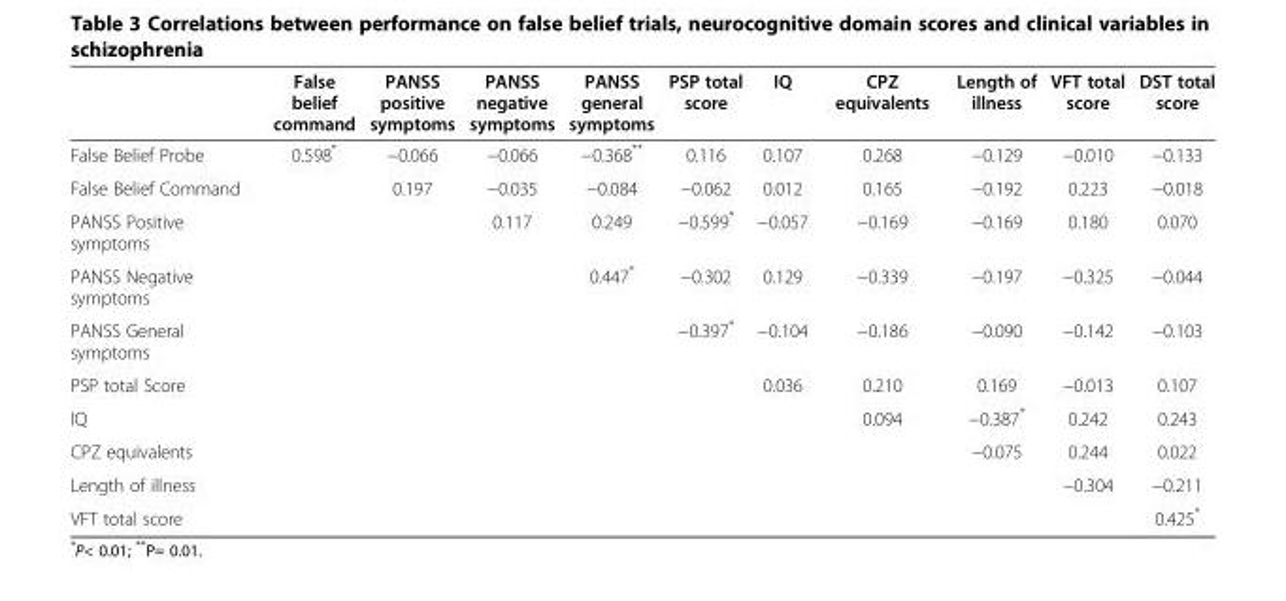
<table><thead><tr><td></td><td>False belief command</td><td>PANSS positive symptoms</td><td>PANSS negative symptoms</td><td>PANSS general symptoms</td><td>PSP total score</td><td>IQ</td><td>CPZ equivalents</td><td>Length of illness</td><td>VFT total score</td><td>DST total score</td></tr></thead><tbody><tr><td>False Belief Probe</td><td>0.598*</td><td>−0.066</td><td>−0.066</td><td>−0.368**</td><td>0.116</td><td>0.107</td><td>0.268</td><td>−0.129</td><td>−0.010</td><td>−0.133</td></tr><tr><td>False Belief Command</td><td></td><td>0.197</td><td>−0.035</td><td>−0.084</td><td>−0.062</td><td>0.012</td><td>0.165</td><td>−0.192</td><td>0.223</td><td>−0.018</td></tr><tr><td>PANSS Positive symptoms</td><td></td><td></td><td>0.117</td><td>0.249</td><td>−0.599*</td><td>−0.057</td><td>−0.169</td><td>−0.169</td><td>0.180</td><td>0.070</td></tr><tr><td>PANSS Negative symptoms</td><td></td><td></td><td></td><td>0.447*</td><td>−0.302</td><td>0.129</td><td>−0.339</td><td>−0.197</td><td>−0.325</td><td>−0.044</td></tr><tr><td>PANSS General symptoms</td><td></td><td></td><td></td><td></td><td>−0.397*</td><td>−0.104</td><td>−0.186</td><td>−0.090</td><td>−0.142</td><td>−0.103</td></tr><tr><td>PSP total Score</td><td></td><td></td><td></td><td></td><td></td><td>0.036</td><td>0.210</td><td>0.169</td><td>−0.013</td><td>0.107</td></tr><tr><td>IQ</td><td></td><td></td><td></td><td></td><td></td><td></td><td>0.094</td><td>−0.387*</td><td>0.242</td><td>0.243</td></tr><tr><td>CPZ equivalents</td><td></td><td></td><td></td><td></td><td></td><td></td><td></td><td>−0.075</td><td>0.244</td><td>0.022</td></tr><tr><td>Length of illness</td><td></td><td></td><td></td><td></td><td></td><td></td><td></td><td></td><td>−0.304</td><td>−0.211</td></tr><tr><td>VFT total score</td><td></td><td></td><td></td><td></td><td></td><td></td><td></td><td></td><td></td><td>0.425*</td></tr></tbody></table>